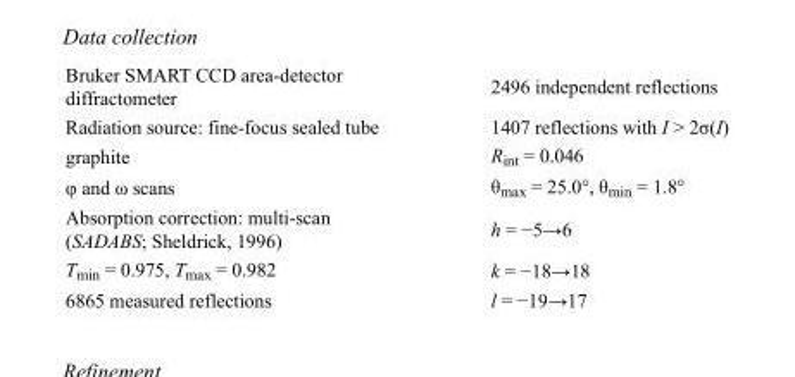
<table><tbody><tr><td>Bruker SMART CCD area-detector diffractometer</td><td>2496 independent reflections</td></tr><tr><td>Radiation source: fine-focus sealed tube</td><td>1407 reflections with I &gt; 2σ(I)</td></tr><tr><td>graphite</td><td>R<sub>int</sub> = 0.046</td></tr><tr><td>φ and ω scans</td><td>θ<sub>max</sub> = 25.0°, θ<sub>min</sub> = 1.8°</td></tr><tr><td>Absorption correction: multi-scan (SADABS; Sheldrick, 1996)</td><td>h = −5→6</td></tr><tr><td>T<sub>min</sub> = 0.975, T<sub>max</sub> = 0.982</td><td>k = −18→18</td></tr><tr><td>6865 measured reflections</td><td>l = −19→17</td></tr></tbody></table>